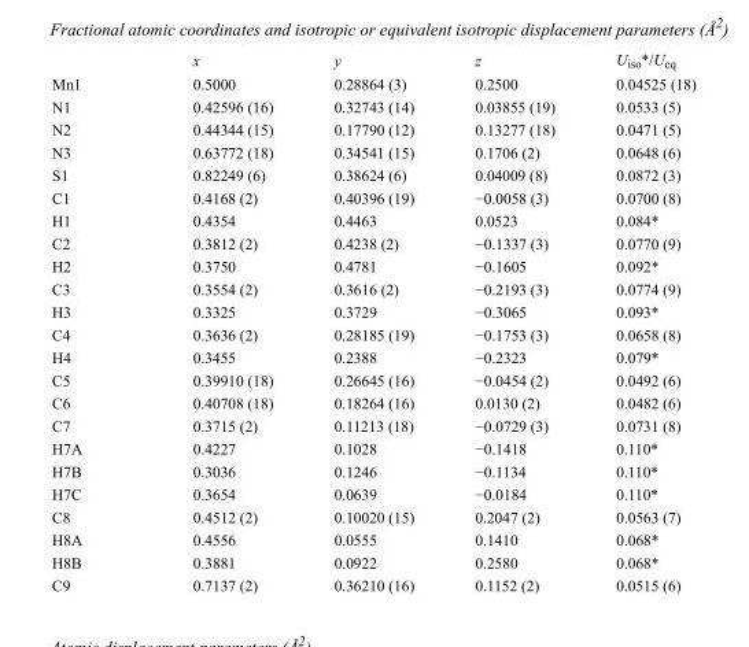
<table><thead><tr><td></td><td>x</td><td>y</td><td>z</td><td>U<sub>iso</sub>*/U<sub>eq</sub></td></tr></thead><tbody><tr><td>Mn1</td><td>0.5000</td><td>0.28864 (3)</td><td>0.2500</td><td>0.04525 (18)</td></tr><tr><td>N1</td><td>0.42596 (16)</td><td>0.32743 (14)</td><td>0.03855 (19)</td><td>0.0533 (5)</td></tr><tr><td>N2</td><td>0.44344 (15)</td><td>0.17790 (12)</td><td>0.13277 (18)</td><td>0.0471 (5)</td></tr><tr><td>N3</td><td>0.63772 (18)</td><td>0.34541 (15)</td><td>0.1706 (2)</td><td>0.0648 (6)</td></tr><tr><td>S1</td><td>0.82249 (6)</td><td>0.38624 (6)</td><td>0.04009 (8)</td><td>0.0872 (3)</td></tr><tr><td>C1</td><td>0.4168 (2)</td><td>0.40396 (19)</td><td>−0.0058 (3)</td><td>0.0700 (8)</td></tr><tr><td>H1</td><td>0.4354</td><td>0.4463</td><td>0.0523</td><td>0.084*</td></tr><tr><td>C2</td><td>0.3812 (2)</td><td>0.4238 (2)</td><td>−0.1337 (3)</td><td>0.0770 (9)</td></tr><tr><td>H2</td><td>0.3750</td><td>0.4781</td><td>−0.1605</td><td>0.092*</td></tr><tr><td>C3</td><td>0.3554 (2)</td><td>0.3616 (2)</td><td>−0.2193 (3)</td><td>0.0774 (9)</td></tr><tr><td>H3</td><td>0.3325</td><td>0.3729</td><td>−0.3065</td><td>0.093*</td></tr><tr><td>C4</td><td>0.3636 (2)</td><td>0.28185 (19)</td><td>−0.1753 (3)</td><td>0.0658 (8)</td></tr><tr><td>H4</td><td>0.3455</td><td>0.2388</td><td>−0.2323</td><td>0.079*</td></tr><tr><td>C5</td><td>0.39910 (18)</td><td>0.26645 (16)</td><td>−0.0454 (2)</td><td>0.0492 (6)</td></tr><tr><td>C6</td><td>0.40708 (18)</td><td>0.18264 (16)</td><td>0.0130 (2)</td><td>0.0482 (6)</td></tr><tr><td>C7</td><td>0.3715 (2)</td><td>0.11213 (18)</td><td>−0.0729 (3)</td><td>0.0731 (8)</td></tr><tr><td>H7A</td><td>0.4227</td><td>0.1028</td><td>−0.1418</td><td>0.110*</td></tr><tr><td>H7B</td><td>0.3036</td><td>0.1246</td><td>−0.1134</td><td>0.110*</td></tr><tr><td>H7C</td><td>0.3654</td><td>0.0639</td><td>−0.0184</td><td>0.110*</td></tr><tr><td>C8</td><td>0.4512 (2)</td><td>0.10020 (15)</td><td>0.2047 (2)</td><td>0.0563 (7)</td></tr><tr><td>H8A</td><td>0.4556</td><td>0.0555</td><td>0.1410</td><td>0.068*</td></tr><tr><td>H8B</td><td>0.3881</td><td>0.0922</td><td>0.2580</td><td>0.068*</td></tr><tr><td>C9</td><td>0.7137 (2)</td><td>0.36210 (16)</td><td>0.1152 (2)</td><td>0.0515 (6)</td></tr></tbody></table>